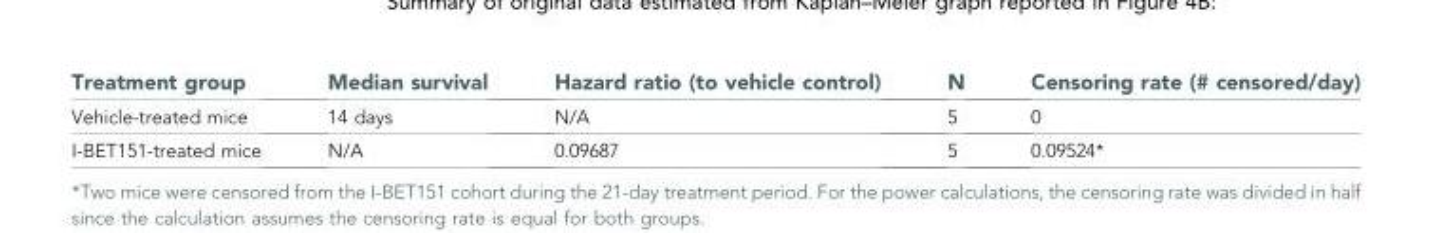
<table><thead><tr><td>Treatment group</td><td>Median survival</td><td>Hazard ratio (to vehicle control)</td><td>N</td><td>Censoring rate (# censored/day)</td></tr></thead><tbody><tr><td>Vehicle-treated mice</td><td>14 days</td><td>N/A</td><td>5</td><td>0</td></tr><tr><td>I-BET151-treated mice</td><td>N/A</td><td>0.09687</td><td>5</td><td>0.09524*</td></tr></tbody></table>